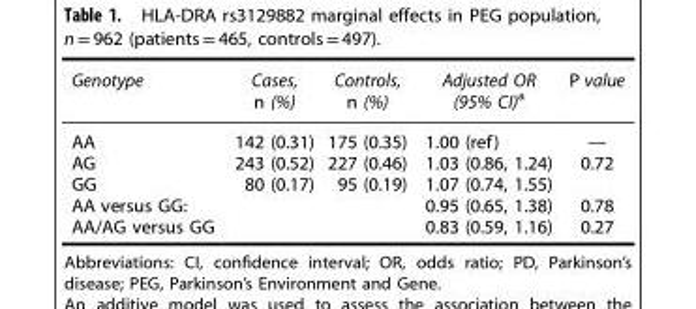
<table><thead><tr><td>Genotype</td><td>Cases, n (%)</td><td>Controls, n (%)</td><td>Adjusted OR (95% CI)a</td><td>P value</td></tr></thead><tbody><tr><td>AA</td><td>142 (0.31)</td><td>175 (0.35)</td><td>1.00 (ref)</td><td>—</td></tr><tr><td>AG</td><td>243 (0.52)</td><td>227 (0.46)</td><td>1.03 (0.86, 1.24)</td><td>0.72</td></tr><tr><td>GG</td><td>80 (0.17)</td><td>95 (0.19)</td><td>1.07 (0.74, 1.55)</td><td></td></tr><tr><td>AA versus GG:</td><td></td><td></td><td>0.95 (0.65, 1.38)</td><td>0.78</td></tr><tr><td>AA/AG versus GG</td><td></td><td></td><td>0.83 (0.59, 1.16)</td><td>0.27</td></tr></tbody></table>